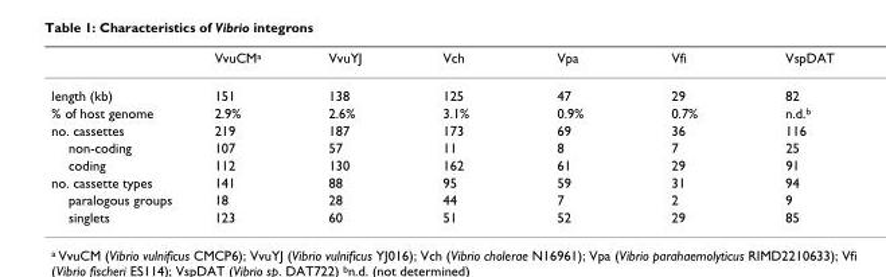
<table><thead><tr><td></td><td>VvuCM<sup>a</sup></td><td>VvuYJ</td><td>Vch</td><td>Vpa</td><td>Vfi</td><td>VspDAT</td></tr></thead><tbody><tr><td>length (kb)</td><td>151</td><td>138</td><td>125</td><td>47</td><td>29</td><td>82</td></tr><tr><td>% of host genome</td><td>2.9%</td><td>2.6%</td><td>3.1%</td><td>0.9%</td><td>0.7%</td><td>n.d.<sup>b</sup></td></tr><tr><td>no. cassettes</td><td>219</td><td>187</td><td>173</td><td>69</td><td>36</td><td>116</td></tr><tr><td>non-coding</td><td>107</td><td>57</td><td>11</td><td>8</td><td>7</td><td>25</td></tr><tr><td>coding</td><td>112</td><td>130</td><td>162</td><td>61</td><td>29</td><td>91</td></tr><tr><td>no. cassette types</td><td>141</td><td>88</td><td>95</td><td>59</td><td>31</td><td>94</td></tr><tr><td>paralogous groups</td><td>18</td><td>28</td><td>44</td><td>7</td><td>2</td><td>9</td></tr><tr><td>singlets</td><td>123</td><td>60</td><td>51</td><td>52</td><td>29</td><td>85</td></tr></tbody></table>